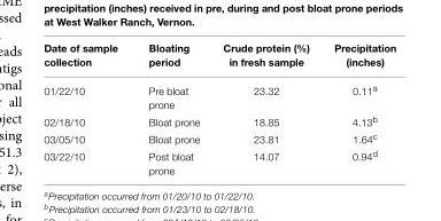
<table><thead><tr><td>Date of sample collection</td><td>Bloating period</td><td>Crude protein (%) in fresh sample</td><td>Precipitation (inches)</td></tr></thead><tbody><tr><td>01/22/10</td><td>Pre bloat prone</td><td>23.32</td><td>0.11<sup>a</sup></td></tr><tr><td>02/18/10</td><td>Bloat prone</td><td>18.85</td><td>4.13<sup>b</sup></td></tr><tr><td>03/05/10</td><td>Bloat prone</td><td>23.81</td><td>1.64<sup>c</sup></td></tr><tr><td>03/22/10</td><td>Post bloat prone</td><td>14.07</td><td>0.94<sup>d</sup></td></tr></tbody></table>